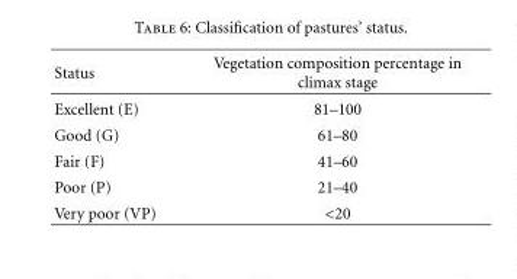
<table><thead><tr><td>Status</td><td>Vegetation composition percentage in climax stage</td></tr></thead><tbody><tr><td>Excellent (E)</td><td>81–100</td></tr><tr><td>Good (G)</td><td>61–80</td></tr><tr><td>Fair (F)</td><td>41–60</td></tr><tr><td>Poor (P)</td><td>21–40</td></tr><tr><td>Very poor (VP)</td><td>&lt;20</td></tr></tbody></table>